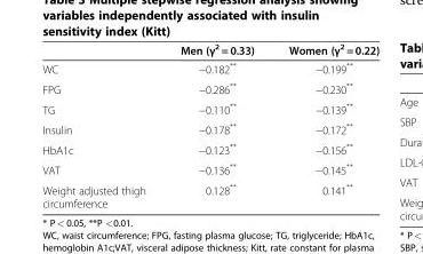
<table><thead><tr><td></td><td>Men (γ<sup>2</sup> = 0.33)</td><td>Women (γ<sup>2</sup> = 0.22)</td></tr></thead><tbody><tr><td>WC</td><td>−0.182**</td><td>−0.199**</td></tr><tr><td>FPG</td><td>−0.286**</td><td>−0.230**</td></tr><tr><td>TG</td><td>−0.110**</td><td>−0.139**</td></tr><tr><td>Insulin</td><td>−0.178**</td><td>−0.172**</td></tr><tr><td>HbA1c</td><td>−0.123**</td><td>−0.156**</td></tr><tr><td>VAT</td><td>−0.136**</td><td>−0.145**</td></tr><tr><td>Weight adjusted thigh circumference</td><td>0.128**</td><td>0.141**</td></tr></tbody></table>